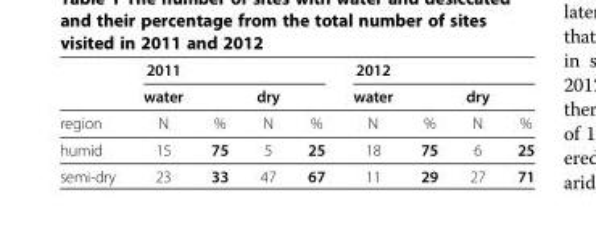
<table><thead><tr><td rowspan="2"></td><td rowspan="2">2011 water</td><td rowspan="2"></td><td rowspan="2">dry</td><td rowspan="2"></td><td rowspan="2">2012 water</td><td rowspan="2"></td><td rowspan="2">dry</td><td rowspan="2"></td></tr><tr></tr></thead><tbody><tr><td>region</td><td>N</td><td>%</td><td>N</td><td>%</td><td>N</td><td>%</td><td>N</td><td>%</td></tr><tr><td>humid</td><td>15</td><td>75</td><td>5</td><td>25</td><td>18</td><td>75</td><td>6</td><td>25</td></tr><tr><td>semi-dry</td><td>23</td><td>33</td><td>47</td><td>67</td><td>11</td><td>29</td><td>27</td><td>71</td></tr></tbody></table>